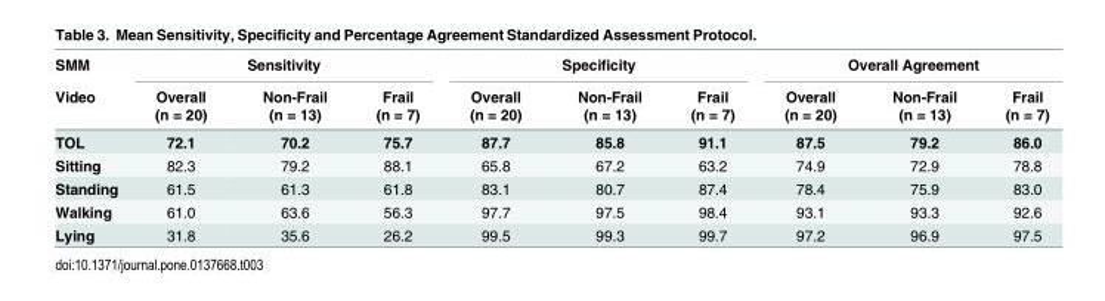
<table><thead><tr><td rowspan="2">SMM Video</td><td colspan="3">Sensitivity</td><td colspan="3">Specificity</td><td colspan="3">Overall Agreement</td></tr><tr><td>Overall (n = 20)</td><td>Non-Frail (n = 13)</td><td>Frail (n = 7)</td><td>Overall (n = 20)</td><td>Non-Frail (n = 13)</td><td>Frail (n = 7)</td><td>Overall (n = 20)</td><td>Non-Frail (n = 13)</td><td>Frail (n = 7)</td></tr></thead><tbody><tr><td>TOL</td><td>72.1</td><td>70.2</td><td>75.7</td><td>87.7</td><td>85.8</td><td>91.1</td><td>87.5</td><td>79.2</td><td>86.0</td></tr><tr><td>Sitting</td><td>82.3</td><td>79.2</td><td>88.1</td><td>65.8</td><td>67.2</td><td>63.2</td><td>74.9</td><td>72.9</td><td>78.8</td></tr><tr><td>Standing</td><td>61.5</td><td>61.3</td><td>61.8</td><td>83.1</td><td>80.7</td><td>87.4</td><td>78.4</td><td>75.9</td><td>83.0</td></tr><tr><td>Walking</td><td>61.0</td><td>63.6</td><td>56.3</td><td>97.7</td><td>97.5</td><td>98.4</td><td>93.1</td><td>93.3</td><td>92.6</td></tr><tr><td>Lying</td><td>31.8</td><td>35.6</td><td>26.2</td><td>99.5</td><td>99.3</td><td>99.7</td><td>97.2</td><td>96.9</td><td>97.5</td></tr></tbody></table>